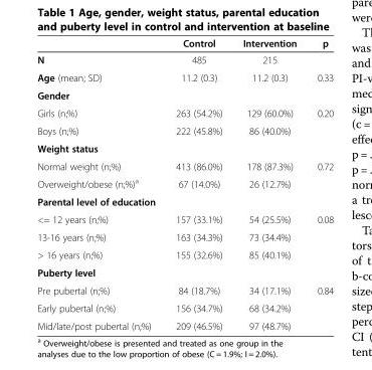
<table><thead><tr><td></td><td>Control</td><td>Intervention</td><td>p</td></tr></thead><tbody><tr><td>N</td><td>485</td><td>215</td><td></td></tr><tr><td>Age (mean; SD)</td><td>11.2 (0.3)</td><td>11.2 (0.3)</td><td>0.33</td></tr><tr><td colspan="4">Gender</td></tr><tr><td>Girls (n;%)</td><td>263 (54.2%)</td><td>129 (60.0%)</td><td>0.20</td></tr><tr><td>Boys (n;%)</td><td>222 (45.8%)</td><td>86 (40.0%)</td><td></td></tr><tr><td colspan="4">Weight status</td></tr><tr><td>Normal weight (n;%)</td><td>413 (86.0%)</td><td>178 (87.3%)</td><td>0.72</td></tr><tr><td>Overweight/obese (n;%)<sup>a</sup></td><td>67 (14.0%)</td><td>26 (12.7%)</td><td></td></tr><tr><td colspan="4">Parental level of education</td></tr><tr><td>&lt;= 12 years (n;%)</td><td>157 (33.1%)</td><td>54 (25.5%)</td><td>0.08</td></tr><tr><td>13-16 years (n;%)</td><td>163 (34.3%)</td><td>73 (34.4%)</td><td></td></tr><tr><td>&gt; 16 years (n;%)</td><td>155 (32.6%)</td><td>85 (40.1%)</td><td></td></tr><tr><td colspan="4">Puberty level</td></tr><tr><td>Pre pubertal (n;%)</td><td>84 (18.7%)</td><td>34 (17.1%)</td><td>0.84</td></tr><tr><td>Early pubertal (n;%)</td><td>156 (34.7%)</td><td>68 (34.2%)</td><td></td></tr><tr><td>Mid/late/post pubertal (n;%)</td><td>209 (46.5%)</td><td>97 (48.7%)</td><td></td></tr></tbody></table>